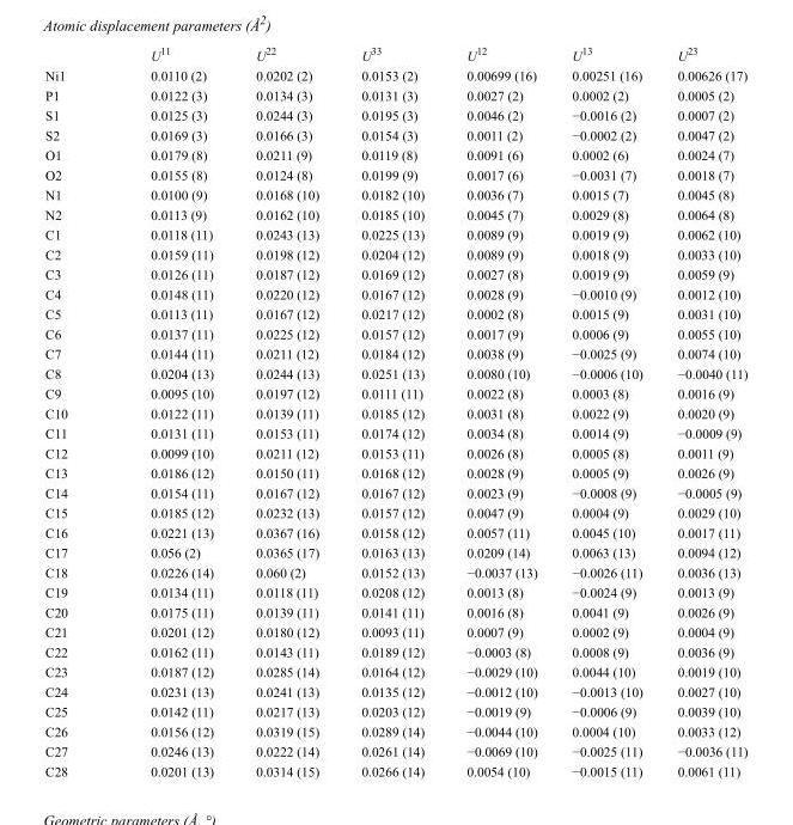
<table><thead><tr><td></td><td>U<sup>11</sup></td><td>U<sup>22</sup></td><td>U<sup>33</sup></td><td>U<sup>12</sup></td><td>U<sup>13</sup></td><td>U<sup>23</sup></td></tr></thead><tbody><tr><td>Ni1</td><td>0.0110 (2)</td><td>0.0202 (2)</td><td>0.0153 (2)</td><td>0.00699 (16)</td><td>0.00251 (16)</td><td>0.00626 (17)</td></tr><tr><td>P1</td><td>0.0122 (3)</td><td>0.0134 (3)</td><td>0.0131 (3)</td><td>0.0027 (2)</td><td>0.0002 (2)</td><td>0.0005 (2)</td></tr><tr><td>S1</td><td>0.0125 (3)</td><td>0.0244 (3)</td><td>0.0195 (3)</td><td>0.0046 (2)</td><td>−0.0016 (2)</td><td>0.0007 (2)</td></tr><tr><td>S2</td><td>0.0169 (3)</td><td>0.0166 (3)</td><td>0.0154 (3)</td><td>0.0011 (2)</td><td>−0.0002 (2)</td><td>0.0047 (2)</td></tr><tr><td>O1</td><td>0.0179 (8)</td><td>0.0211 (9)</td><td>0.0119 (8)</td><td>0.0091 (6)</td><td>0.0002 (6)</td><td>0.0024 (7)</td></tr><tr><td>O2</td><td>0.0155 (8)</td><td>0.0124 (8)</td><td>0.0199 (9)</td><td>0.0017 (6)</td><td>−0.0031 (7)</td><td>0.0018 (7)</td></tr><tr><td>N1</td><td>0.0100 (9)</td><td>0.0168 (10)</td><td>0.0182 (10)</td><td>0.0036 (7)</td><td>0.0015 (7)</td><td>0.0045 (8)</td></tr><tr><td>N2</td><td>0.0113 (9)</td><td>0.0162 (10)</td><td>0.0185 (10)</td><td>0.0045 (7)</td><td>0.0029 (8)</td><td>0.0064 (8)</td></tr><tr><td>C1</td><td>0.0118 (11)</td><td>0.0243 (13)</td><td>0.0225 (13)</td><td>0.0089 (9)</td><td>0.0019 (9)</td><td>0.0062 (10)</td></tr><tr><td>C2</td><td>0.0159 (11)</td><td>0.0198 (12)</td><td>0.0204 (12)</td><td>0.0089 (9)</td><td>0.0018 (9)</td><td>0.0033 (10)</td></tr><tr><td>C3</td><td>0.0126 (11)</td><td>0.0187 (12)</td><td>0.0169 (12)</td><td>0.0027 (8)</td><td>0.0019 (9)</td><td>0.0059 (9)</td></tr><tr><td>C4</td><td>0.0148 (11)</td><td>0.0220 (12)</td><td>0.0167 (12)</td><td>0.0028 (9)</td><td>−0.0010 (9)</td><td>0.0012 (10)</td></tr><tr><td>C5</td><td>0.0113 (11)</td><td>0.0167 (12)</td><td>0.0217 (12)</td><td>0.0002 (8)</td><td>0.0015 (9)</td><td>0.0031 (10)</td></tr><tr><td>C6</td><td>0.0137 (11)</td><td>0.0225 (12)</td><td>0.0157 (12)</td><td>0.0017 (9)</td><td>0.0006 (9)</td><td>0.0055 (10)</td></tr><tr><td>C7</td><td>0.0144 (11)</td><td>0.0211 (12)</td><td>0.0184 (12)</td><td>0.0038 (9)</td><td>−0.0025 (9)</td><td>0.0074 (10)</td></tr><tr><td>C8</td><td>0.0204 (13)</td><td>0.0244 (13)</td><td>0.0251 (13)</td><td>0.0080 (10)</td><td>−0.0006 (10)</td><td>−0.0040 (11)</td></tr><tr><td>C9</td><td>0.0095 (10)</td><td>0.0197 (12)</td><td>0.0111 (11)</td><td>0.0022 (8)</td><td>0.0003 (8)</td><td>0.0016 (9)</td></tr><tr><td>C10</td><td>0.0122 (11)</td><td>0.0139 (11)</td><td>0.0185 (12)</td><td>0.0031 (8)</td><td>0.0022 (9)</td><td>0.0020 (9)</td></tr><tr><td>C11</td><td>0.0131 (11)</td><td>0.0153 (11)</td><td>0.0174 (12)</td><td>0.0034 (8)</td><td>0.0014 (9)</td><td>−0.0009 (9)</td></tr><tr><td>C12</td><td>0.0099 (10)</td><td>0.0211 (12)</td><td>0.0153 (11)</td><td>0.0026 (8)</td><td>0.0005 (8)</td><td>0.0011 (9)</td></tr><tr><td>C13</td><td>0.0186 (12)</td><td>0.0150 (11)</td><td>0.0168 (12)</td><td>0.0028 (9)</td><td>0.0005 (9)</td><td>0.0026 (9)</td></tr><tr><td>C14</td><td>0.0154 (11)</td><td>0.0167 (12)</td><td>0.0167 (12)</td><td>0.0023 (9)</td><td>−0.0008 (9)</td><td>−0.0005 (9)</td></tr><tr><td>C15</td><td>0.0185 (12)</td><td>0.0232 (13)</td><td>0.0157 (12)</td><td>0.0047 (9)</td><td>0.0004 (9)</td><td>0.0029 (10)</td></tr><tr><td>C16</td><td>0.0221 (13)</td><td>0.0367 (16)</td><td>0.0158 (12)</td><td>0.0057 (11)</td><td>0.0045 (10)</td><td>0.0017 (11)</td></tr><tr><td>C17</td><td>0.056 (2)</td><td>0.0365 (17)</td><td>0.0163 (13)</td><td>0.0209 (14)</td><td>0.0063 (13)</td><td>0.0094 (12)</td></tr><tr><td>C18</td><td>0.0226 (14)</td><td>0.060 (2)</td><td>0.0152 (13)</td><td>−0.0037 (13)</td><td>−0.0026 (11)</td><td>0.0036 (13)</td></tr><tr><td>C19</td><td>0.0134 (11)</td><td>0.0118 (11)</td><td>0.0208 (12)</td><td>0.0013 (8)</td><td>−0.0024 (9)</td><td>0.0013 (9)</td></tr><tr><td>C20</td><td>0.0175 (11)</td><td>0.0139 (11)</td><td>0.0141 (11)</td><td>0.0016 (8)</td><td>0.0041 (9)</td><td>0.0026 (9)</td></tr><tr><td>C21</td><td>0.0201 (12)</td><td>0.0180 (12)</td><td>0.0093 (11)</td><td>0.0007 (9)</td><td>0.0002 (9)</td><td>0.0004 (9)</td></tr><tr><td>C22</td><td>0.0162 (11)</td><td>0.0143 (11)</td><td>0.0189 (12)</td><td>−0.0003 (8)</td><td>0.0008 (9)</td><td>0.0036 (9)</td></tr><tr><td>C23</td><td>0.0187 (12)</td><td>0.0285 (14)</td><td>0.0164 (12)</td><td>−0.0029 (10)</td><td>0.0044 (10)</td><td>0.0019 (10)</td></tr><tr><td>C24</td><td>0.0231 (13)</td><td>0.0241 (13)</td><td>0.0135 (12)</td><td>−0.0012 (10)</td><td>−0.0013 (10)</td><td>0.0027 (10)</td></tr><tr><td>C25</td><td>0.0142 (11)</td><td>0.0217 (13)</td><td>0.0203 (12)</td><td>−0.0019 (9)</td><td>−0.0006 (9)</td><td>0.0039 (10)</td></tr><tr><td>C26</td><td>0.0156 (12)</td><td>0.0319 (15)</td><td>0.0289 (14)</td><td>−0.0044 (10)</td><td>0.0004 (10)</td><td>0.0033 (12)</td></tr><tr><td>C27</td><td>0.0246 (13)</td><td>0.0222 (14)</td><td>0.0261 (14)</td><td>−0.0069 (10)</td><td>−0.0025 (11)</td><td>−0.0036 (11)</td></tr><tr><td>C28</td><td>0.0201 (13)</td><td>0.0314 (15)</td><td>0.0266 (14)</td><td>0.0054 (10)</td><td>−0.0015 (11)</td><td>0.0061 (11)</td></tr></tbody></table>